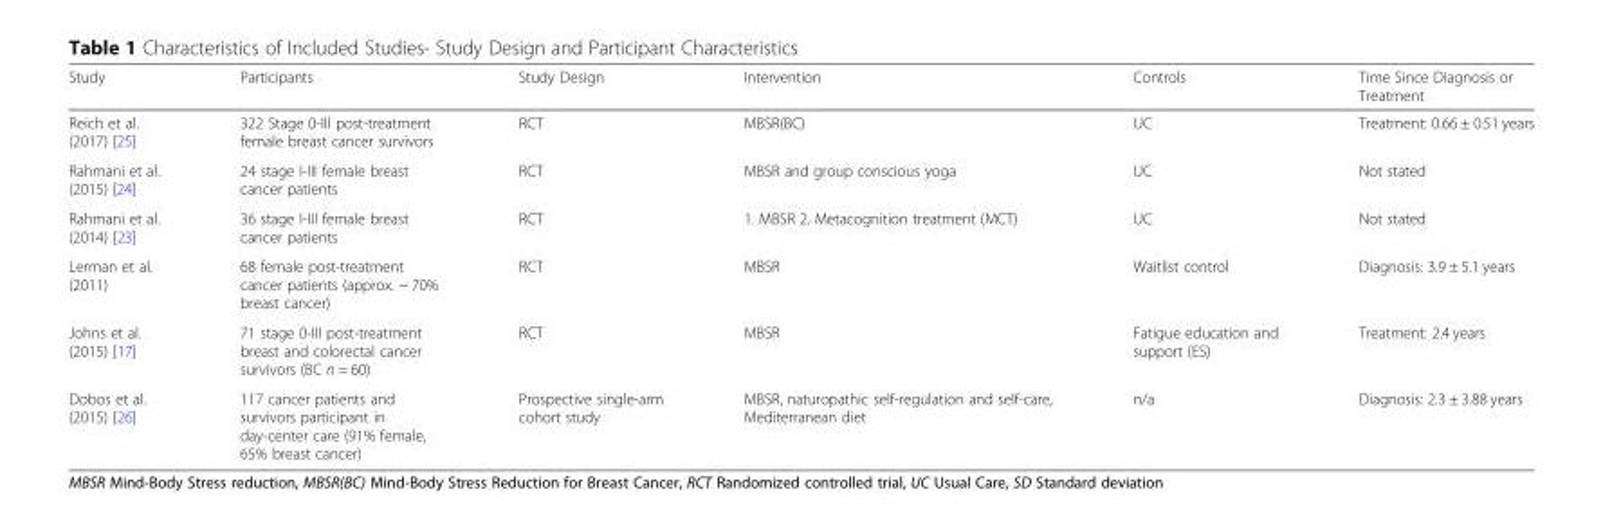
<table><thead><tr><td>Study</td><td>Participants</td><td>Study Design</td><td>Intervention</td><td>Controls</td><td>Time Since Diagnosis or Treatment</td></tr></thead><tbody><tr><td>Reich et al. (2017) [25]</td><td>322 Stage 0-III post-treatment female breast cancer survivors</td><td>RCT</td><td>MBSR(BC)</td><td>UC</td><td>Treatment: 0.66 ± 0.51 years</td></tr><tr><td>Rahmani et al. (2015) [24]</td><td>24 stage I-III female breast cancer patients</td><td>RCT</td><td>MBSR and group conscious yoga</td><td>UC</td><td>Not stated</td></tr><tr><td>Rahmani et al. (2014) [23]</td><td>36 stage I-III female breast cancer patients</td><td>RCT</td><td>1. MBSR 2. Metacognition treatment (MCT)</td><td>UC</td><td>Not stated</td></tr><tr><td>Lerman et al. (2011)</td><td>68 female post-treatment cancer patients (approx. ~ 70% breast cancer)</td><td>RCT</td><td>MBSR</td><td>Waitlist control</td><td>Diagnosis: 3.9 ± 5.1 years</td></tr><tr><td>Johns et al. (2015) [17]</td><td>71 stage 0-III post-treatment breast and colorectal cancer survivors (BC n = 60)</td><td>RCT</td><td>MBSR</td><td>Fatigue education and support (ES)</td><td>Treatment: 2.4 years</td></tr><tr><td>Dobos et al. (2015) [26]</td><td>117 cancer patients and survivors participant in day-center care (91% female, 65% breast cancer)</td><td>Prospective single-arm cohort study</td><td>MBSR, naturopathic self-regulation and self-care, Mediterranean diet</td><td>n/a</td><td>Diagnosis: 2.3 ± 3.88 years</td></tr></tbody></table>